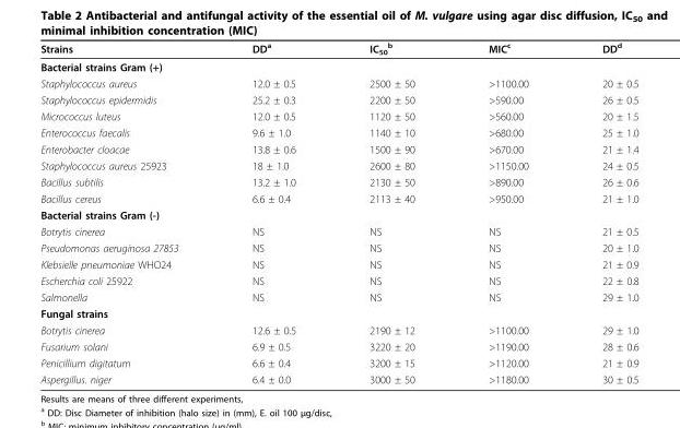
<table><thead><tr><td>Strains</td><td>DD<sup>a</sup></td><td>IC<sub>50</sub> <sup>b</sup></td><td>MIC<sup>c</sup></td><td>DD<sup>d</sup></td></tr></thead><tbody><tr><td colspan="5">Bacterial strains Gram (+)</td></tr><tr><td>Staphylococcus aureus</td><td>12.0 ± 0.5</td><td>2500 ± 50</td><td>&gt;1100.00</td><td>20 ± 0.5</td></tr><tr><td>Staphylococcus epidermidis</td><td>25.2 ± 0.3</td><td>2200 ± 50</td><td>&gt;590.00</td><td>26 ± 0.5</td></tr><tr><td>Micrococcus luteus</td><td>12.0 ± 0.5</td><td>1120 ± 50</td><td>&gt;560.00</td><td>20 ± 1.5</td></tr><tr><td>Enterococcus faecalis</td><td>9.6 ± 1.0</td><td>1140 ± 10</td><td>&gt;680.00</td><td>25 ± 1.0</td></tr><tr><td>Enterobacter cloacae</td><td>13.8 ± 0.6</td><td>1500 ± 90</td><td>&gt;670.00</td><td>21 ± 1.4</td></tr><tr><td>Staphylococcus aureus 25923</td><td>18 ± 1.0</td><td>2600 ± 80</td><td>&gt;1150.00</td><td>24 ± 0.5</td></tr><tr><td>Bacillus subtilis</td><td>13.2 ± 1.0</td><td>2130 ± 50</td><td>&gt;890.00</td><td>26 ± 0.6</td></tr><tr><td>Bacillus cereus</td><td>6.6 ± 0.4</td><td>2113 ± 40</td><td>&gt;950.00</td><td>21 ± 1.0</td></tr><tr><td colspan="5">Bacterial strains Gram (-)</td></tr><tr><td>Botrytis cinerea</td><td>NS</td><td>NS</td><td>NS</td><td>21 ± 0.5</td></tr><tr><td>Pseudomonas aeruginosa 27853</td><td>NS</td><td>NS</td><td>NS</td><td>20 ± 1.0</td></tr><tr><td>Klebsielle pneumoniae WHO24</td><td>NS</td><td>NS</td><td>NS</td><td>21 ± 0.9</td></tr><tr><td>Escherchia coli 25922</td><td>NS</td><td>NS</td><td>NS</td><td>22 ± 0.8</td></tr><tr><td>Salmonella</td><td>NS</td><td>NS</td><td>NS</td><td>29 ± 1.0</td></tr><tr><td colspan="5">Fungal strains</td></tr><tr><td>Botrytis cinerea</td><td>12.6 ± 0.5</td><td>2190 ± 12</td><td>&gt;1100.00</td><td>29 ± 1.0</td></tr><tr><td>Fusarium solani</td><td>6.9 ± 0.5</td><td>3220 ± 20</td><td>&gt;1190.00</td><td>28 ± 0.6</td></tr><tr><td>Penicillium digitatum</td><td>6.6 ± 0.4</td><td>3200 ± 15</td><td>&gt;1120.00</td><td>21 ± 0.9</td></tr><tr><td>Aspergillus. niger</td><td>6.4 ± 0.0</td><td>3000 ± 50</td><td>&gt;1180.00</td><td>30 ± 0.5</td></tr></tbody></table>